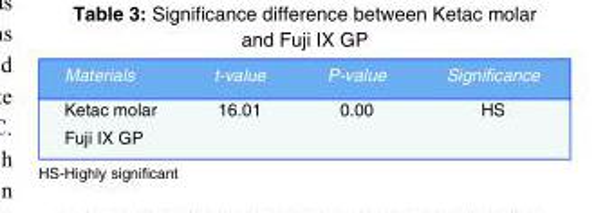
<table><tbody><tr><td>Materials</td><td>t-value</td><td>P-value</td><td>Significance</td></tr><tr><td>Ketac molar</td><td>16.01</td><td>0.00</td><td>HS</td></tr><tr><td>Fuji IX GP</td><td></td><td></td><td></td></tr></tbody></table>